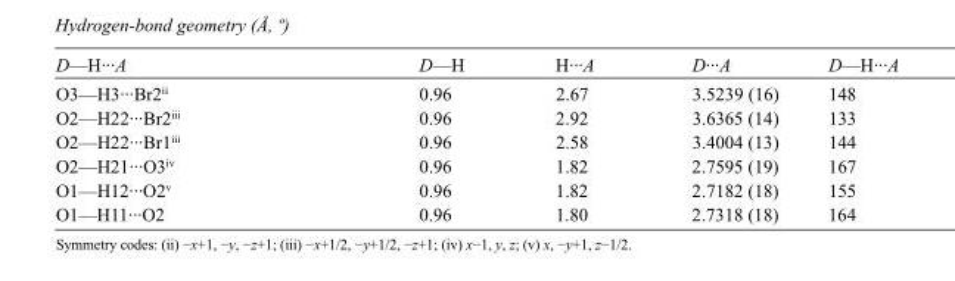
<table><tbody><tr><td>D—H···A</td><td>D—H</td><td>H···A</td><td>D···A</td><td>D—H···A</td></tr><tr><td>O3—H3···Br2<sup>ii</sup></td><td>0.96</td><td>2.67</td><td>3.5239 (16)</td><td>148</td></tr><tr><td>O2—H22···Br2<sup>iii</sup></td><td>0.96</td><td>2.92</td><td>3.6365 (14)</td><td>133</td></tr><tr><td>O2—H22···Br1<sup>iii</sup></td><td>0.96</td><td>2.58</td><td>3.4004 (13)</td><td>144</td></tr><tr><td>O2—H21···O3<sup>iv</sup></td><td>0.96</td><td>1.82</td><td>2.7595 (19)</td><td>167</td></tr><tr><td>O1—H12···O2<sup>v</sup></td><td>0.96</td><td>1.82</td><td>2.7182 (18)</td><td>155</td></tr><tr><td>O1—H11···O2</td><td>0.96</td><td>1.80</td><td>2.7318 (18)</td><td>164</td></tr></tbody></table>